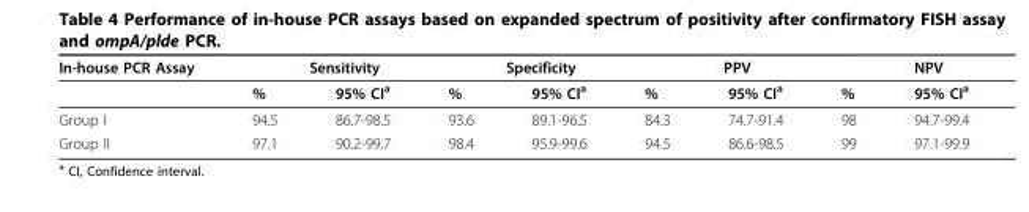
<table><thead><tr><td rowspan="2">In-house PCR Assay</td><td colspan="2">Sensitivity</td><td colspan="2">Specificity</td><td colspan="2">PPV</td><td colspan="2">NPV</td></tr><tr><td>%</td><td>95% CI<sup>a</sup></td><td>%</td><td>95% CI<sup>a</sup></td><td>%</td><td>95% CI<sup>a</sup></td><td>%</td><td>95% CI<sup>a</sup></td></tr></thead><tbody><tr><td>Group I</td><td>94.5</td><td>86.7-98.5</td><td>93.6</td><td>89.1-96.5</td><td>84.3</td><td>74.7-91.4</td><td>98</td><td>94.7-99.4</td></tr><tr><td>Group II</td><td>97.1</td><td>90.2-99.7</td><td>98.4</td><td>95.9-99.6</td><td>94.5</td><td>86.6-98.5</td><td>99</td><td>97.1-99.9</td></tr></tbody></table>